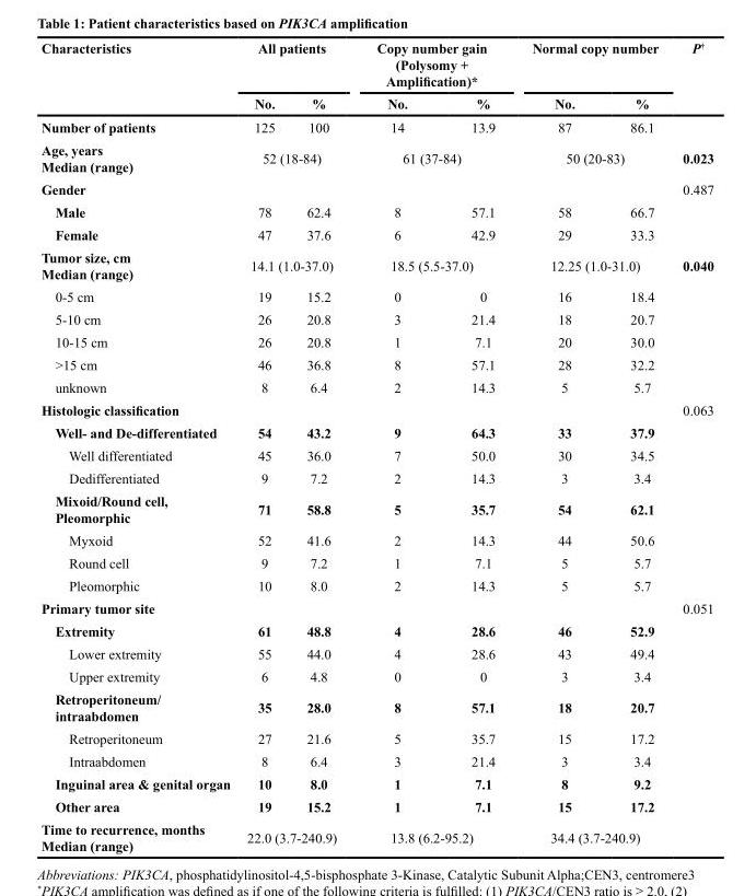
<table><thead><tr><td rowspan="2">Characteristics</td><td colspan="2">All patients</td><td colspan="2">Copy number gain (Polysomy + Amplification)*</td><td colspan="2">Normal copy number</td><td rowspan="2">P<sup>†</sup></td></tr><tr><td>No.</td><td>%</td><td>No.</td><td>%</td><td>No.</td><td>%</td></tr></thead><tbody><tr><td>Number of patients</td><td>125</td><td>100</td><td>14</td><td>13.9</td><td>87</td><td>86.1</td><td></td></tr><tr><td>Age, years Median (range)</td><td colspan="2">52 (18-84)</td><td colspan="2">61 (37-84)</td><td colspan="2">50 (20-83)</td><td>0.023</td></tr><tr><td>Gender</td><td></td><td></td><td></td><td></td><td></td><td></td><td>0.487</td></tr><tr><td>Male</td><td>78</td><td>62.4</td><td>8</td><td>57.1</td><td>58</td><td>66.7</td><td></td></tr><tr><td>Female</td><td>47</td><td>37.6</td><td>6</td><td>42.9</td><td>29</td><td>33.3</td><td></td></tr><tr><td>Tumor size, cm Median (range)</td><td colspan="2">14.1 (1.0-37.0)</td><td colspan="2">18.5 (5.5-37.0)</td><td colspan="2">12.25 (1.0-31.0)</td><td>0.040</td></tr><tr><td>0-5 cm</td><td>19</td><td>15.2</td><td>0</td><td>0</td><td>16</td><td>18.4</td><td></td></tr><tr><td>5-10 cm</td><td>26</td><td>20.8</td><td>3</td><td>21.4</td><td>18</td><td>20.7</td><td></td></tr><tr><td>10-15 cm</td><td>26</td><td>20.8</td><td>1</td><td>7.1</td><td>20</td><td>30.0</td><td></td></tr><tr><td>&gt;15 cm</td><td>46</td><td>36.8</td><td>8</td><td>57.1</td><td>28</td><td>32.2</td><td></td></tr><tr><td>unknown</td><td>8</td><td>6.4</td><td>2</td><td>14.3</td><td>5</td><td>5.7</td><td></td></tr><tr><td>Histologic classification</td><td></td><td></td><td></td><td></td><td></td><td></td><td>0.063</td></tr><tr><td>Well- and De-differentiated</td><td>54</td><td>43.2</td><td>9</td><td>64.3</td><td>33</td><td>37.9</td><td></td></tr><tr><td>Well differentiated</td><td>45</td><td>36.0</td><td>7</td><td>50.0</td><td>30</td><td>34.5</td><td></td></tr><tr><td>Dedifferentiated</td><td>9</td><td>7.2</td><td>2</td><td>14.3</td><td>3</td><td>3.4</td><td></td></tr><tr><td>Mixoid/Round cell, Pleomorphic</td><td>71</td><td>58.8</td><td>5</td><td>35.7</td><td>54</td><td>62.1</td><td></td></tr><tr><td>Myxoid</td><td>52</td><td>41.6</td><td>2</td><td>14.3</td><td>44</td><td>50.6</td><td></td></tr><tr><td>Round cell</td><td>9</td><td>7.2</td><td>1</td><td>7.1</td><td>5</td><td>5.7</td><td></td></tr><tr><td>Pleomorphic</td><td>10</td><td>8.0</td><td>2</td><td>14.3</td><td>5</td><td>5.7</td><td></td></tr><tr><td>Primary tumor site</td><td></td><td></td><td></td><td></td><td></td><td></td><td>0.051</td></tr><tr><td>Extremity</td><td>61</td><td>48.8</td><td>4</td><td>28.6</td><td>46</td><td>52.9</td><td></td></tr><tr><td>Lower extremity</td><td>55</td><td>44.0</td><td>4</td><td>28.6</td><td>43</td><td>49.4</td><td></td></tr><tr><td>Upper extremity</td><td>6</td><td>4.8</td><td>0</td><td>0</td><td>3</td><td>3.4</td><td></td></tr><tr><td>Retroperitoneum/ intraabdomen</td><td>35</td><td>28.0</td><td>8</td><td>57.1</td><td>18</td><td>20.7</td><td></td></tr><tr><td>Retroperitoneum</td><td>27</td><td>21.6</td><td>5</td><td>35.7</td><td>15</td><td>17.2</td><td></td></tr><tr><td>Intraabdomen</td><td>8</td><td>6.4</td><td>3</td><td>21.4</td><td>3</td><td>3.4</td><td></td></tr><tr><td>Inguinal area &amp; genital organ</td><td>10</td><td>8.0</td><td>1</td><td>7.1</td><td>8</td><td>9.2</td><td></td></tr><tr><td>Other area</td><td>19</td><td>15.2</td><td>1</td><td>7.1</td><td>15</td><td>17.2</td><td></td></tr><tr><td>Time to recurrence, months Median (range)</td><td colspan="2">22.0 (3.7-240.9)</td><td colspan="2">13.8 (6.2-95.2)</td><td colspan="2">34.4 (3.7-240.9)</td><td></td></tr></tbody></table>